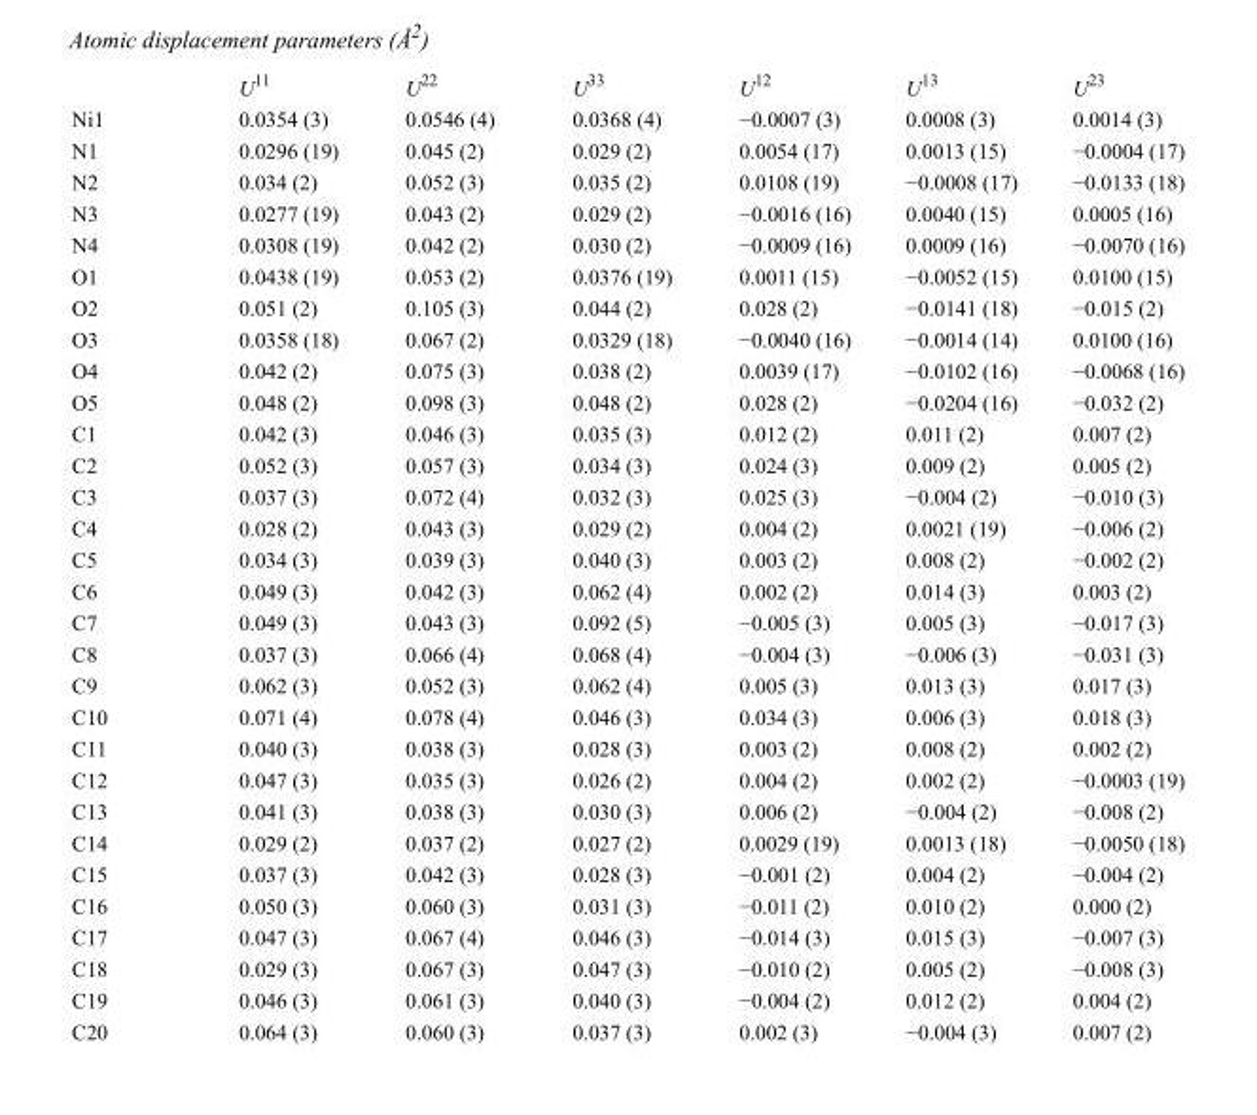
<table><thead><tr><td></td><td>U<sup>11</sup></td><td>U<sup>22</sup></td><td>U<sup>33</sup></td><td>U<sup>12</sup></td><td>U<sup>13</sup></td><td>U<sup>23</sup></td></tr></thead><tbody><tr><td>Ni1</td><td>0.0354 (3)</td><td>0.0546 (4)</td><td>0.0368 (4)</td><td>−0.0007 (3)</td><td>0.0008 (3)</td><td>0.0014 (3)</td></tr><tr><td>N1</td><td>0.0296 (19)</td><td>0.045 (2)</td><td>0.029 (2)</td><td>0.0054 (17)</td><td>0.0013 (15)</td><td>−0.0004 (17)</td></tr><tr><td>N2</td><td>0.034 (2)</td><td>0.052 (3)</td><td>0.035 (2)</td><td>0.0108 (19)</td><td>−0.0008 (17)</td><td>−0.0133 (18)</td></tr><tr><td>N3</td><td>0.0277 (19)</td><td>0.043 (2)</td><td>0.029 (2)</td><td>−0.0016 (16)</td><td>0.0040 (15)</td><td>0.0005 (16)</td></tr><tr><td>N4</td><td>0.0308 (19)</td><td>0.042 (2)</td><td>0.030 (2)</td><td>−0.0009 (16)</td><td>0.0009 (16)</td><td>−0.0070 (16)</td></tr><tr><td>O1</td><td>0.0438 (19)</td><td>0.053 (2)</td><td>0.0376 (19)</td><td>0.0011 (15)</td><td>−0.0052 (15)</td><td>0.0100 (15)</td></tr><tr><td>O2</td><td>0.051 (2)</td><td>0.105 (3)</td><td>0.044 (2)</td><td>0.028 (2)</td><td>−0.0141 (18)</td><td>−0.015 (2)</td></tr><tr><td>O3</td><td>0.0358 (18)</td><td>0.067 (2)</td><td>0.0329 (18)</td><td>−0.0040 (16)</td><td>−0.0014 (14)</td><td>0.0100 (16)</td></tr><tr><td>O4</td><td>0.042 (2)</td><td>0.075 (3)</td><td>0.038 (2)</td><td>0.0039 (17)</td><td>−0.0102 (16)</td><td>−0.0068 (16)</td></tr><tr><td>O5</td><td>0.048 (2)</td><td>0.098 (3)</td><td>0.048 (2)</td><td>0.028 (2)</td><td>−0.0204 (16)</td><td>−0.032 (2)</td></tr><tr><td>C1</td><td>0.042 (3)</td><td>0.046 (3)</td><td>0.035 (3)</td><td>0.012 (2)</td><td>0.011 (2)</td><td>0.007 (2)</td></tr><tr><td>C2</td><td>0.052 (3)</td><td>0.057 (3)</td><td>0.034 (3)</td><td>0.024 (3)</td><td>0.009 (2)</td><td>0.005 (2)</td></tr><tr><td>C3</td><td>0.037 (3)</td><td>0.072 (4)</td><td>0.032 (3)</td><td>0.025 (3)</td><td>−0.004 (2)</td><td>−0.010 (3)</td></tr><tr><td>C4</td><td>0.028 (2)</td><td>0.043 (3)</td><td>0.029 (2)</td><td>0.004 (2)</td><td>0.0021 (19)</td><td>−0.006 (2)</td></tr><tr><td>C5</td><td>0.034 (3)</td><td>0.039 (3)</td><td>0.040 (3)</td><td>0.003 (2)</td><td>0.008 (2)</td><td>−0.002 (2)</td></tr><tr><td>C6</td><td>0.049 (3)</td><td>0.042 (3)</td><td>0.062 (4)</td><td>0.002 (2)</td><td>0.014 (3)</td><td>0.003 (2)</td></tr><tr><td>C7</td><td>0.049 (3)</td><td>0.043 (3)</td><td>0.092 (5)</td><td>−0.005 (3)</td><td>0.005 (3)</td><td>−0.017 (3)</td></tr><tr><td>C8</td><td>0.037 (3)</td><td>0.066 (4)</td><td>0.068 (4)</td><td>−0.004 (3)</td><td>−0.006 (3)</td><td>−0.031 (3)</td></tr><tr><td>C9</td><td>0.062 (3)</td><td>0.052 (3)</td><td>0.062 (4)</td><td>0.005 (3)</td><td>0.013 (3)</td><td>0.017 (3)</td></tr><tr><td>C10</td><td>0.071 (4)</td><td>0.078 (4)</td><td>0.046 (3)</td><td>0.034 (3)</td><td>0.006 (3)</td><td>0.018 (3)</td></tr><tr><td>C11</td><td>0.040 (3)</td><td>0.038 (3)</td><td>0.028 (3)</td><td>0.003 (2)</td><td>0.008 (2)</td><td>0.002 (2)</td></tr><tr><td>C12</td><td>0.047 (3)</td><td>0.035 (3)</td><td>0.026 (2)</td><td>0.004 (2)</td><td>0.002 (2)</td><td>−0.0003 (19)</td></tr><tr><td>C13</td><td>0.041 (3)</td><td>0.038 (3)</td><td>0.030 (3)</td><td>0.006 (2)</td><td>−0.004 (2)</td><td>−0.008 (2)</td></tr><tr><td>C14</td><td>0.029 (2)</td><td>0.037 (2)</td><td>0.027 (2)</td><td>0.0029 (19)</td><td>0.0013 (18)</td><td>−0.0050 (18)</td></tr><tr><td>C15</td><td>0.037 (3)</td><td>0.042 (3)</td><td>0.028 (3)</td><td>−0.001 (2)</td><td>0.004 (2)</td><td>−0.004 (2)</td></tr><tr><td>C16</td><td>0.050 (3)</td><td>0.060 (3)</td><td>0.031 (3)</td><td>−0.011 (2)</td><td>0.010 (2)</td><td>0.000 (2)</td></tr><tr><td>C17</td><td>0.047 (3)</td><td>0.067 (4)</td><td>0.046 (3)</td><td>−0.014 (3)</td><td>0.015 (3)</td><td>−0.007 (3)</td></tr><tr><td>C18</td><td>0.029 (3)</td><td>0.067 (3)</td><td>0.047 (3)</td><td>−0.010 (2)</td><td>0.005 (2)</td><td>−0.008 (3)</td></tr><tr><td>C19</td><td>0.046 (3)</td><td>0.061 (3)</td><td>0.040 (3)</td><td>−0.004 (2)</td><td>0.012 (2)</td><td>0.004 (2)</td></tr><tr><td>C20</td><td>0.064 (3)</td><td>0.060 (3)</td><td>0.037 (3)</td><td>0.002 (3)</td><td>−0.004 (3)</td><td>0.007 (2)</td></tr></tbody></table>